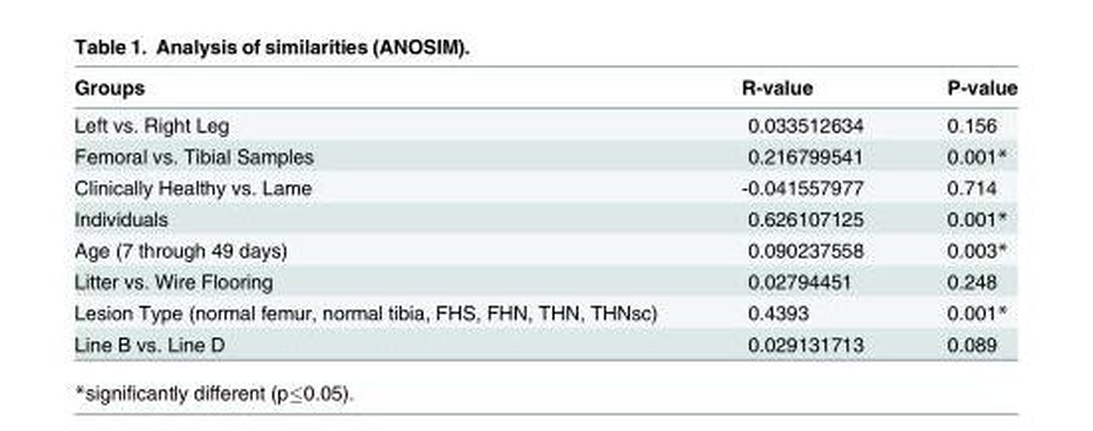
<table><thead><tr><td>Groups</td><td>R-value</td><td>P-value</td></tr></thead><tbody><tr><td>Left vs. Right Leg</td><td>0.033512634</td><td>0.156</td></tr><tr><td>Femoral vs. Tibial Samples</td><td>0.216799541</td><td>0.001*</td></tr><tr><td>Clinically Healthy vs. Lame</td><td>-0.041557977</td><td>0.714</td></tr><tr><td>Individuals</td><td>0.626107125</td><td>0.001*</td></tr><tr><td>Age (7 through 49 days)</td><td>0.090237558</td><td>0.003*</td></tr><tr><td>Litter vs. Wire Flooring</td><td>0.02794451</td><td>0.248</td></tr><tr><td>Lesion Type (normal femur, normal tibia, FHS, FHN, THN, THNsc)</td><td>0.4393</td><td>0.001*</td></tr><tr><td>Line B vs. Line D</td><td>0.029131713</td><td>0.089</td></tr></tbody></table>